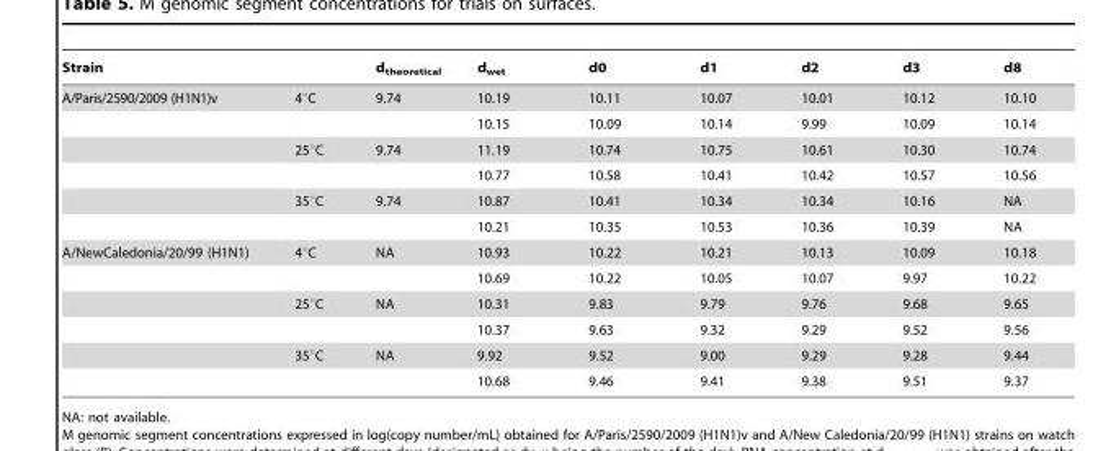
<table><thead><tr><td>Strain</td><td></td><td>d<sub>theoretical</sub></td><td>d<sub>wet</sub></td><td>d0</td><td>d1</td><td>d2</td><td>d3</td><td>d8</td></tr></thead><tbody><tr><td rowspan="6">A/Paris/2590/2009 (H1N1)v</td><td>4°C</td><td>9.74</td><td>10.19</td><td>10.11</td><td>10.07</td><td>10.01</td><td>10.12</td><td>10.10</td></tr><tr><td></td><td></td><td>10.15</td><td>10.09</td><td>10.14</td><td>9.99</td><td>10.09</td><td>10.14</td></tr><tr><td>25°C</td><td>9.74</td><td>11.19</td><td>10.74</td><td>10.75</td><td>10.61</td><td>10.30</td><td>10.74</td></tr><tr><td></td><td></td><td>10.77</td><td>10.58</td><td>10.41</td><td>10.42</td><td>10.57</td><td>10.56</td></tr><tr><td>35°C</td><td>9.74</td><td>10.87</td><td>10.41</td><td>10.34</td><td>10.34</td><td>10.16</td><td>NA</td></tr><tr><td></td><td></td><td>10.21</td><td>10.35</td><td>10.53</td><td>10.36</td><td>10.39</td><td>NA</td></tr><tr><td rowspan="6">A/NewCaledonia/20/99 (H1N1)</td><td>4°C</td><td>NA</td><td>10.93</td><td>10.22</td><td>10.21</td><td>10.13</td><td>10.09</td><td>10.18</td></tr><tr><td></td><td></td><td>10.69</td><td>10.22</td><td>10.05</td><td>10.07</td><td>9.97</td><td>10.22</td></tr><tr><td>25°C</td><td>NA</td><td>10.31</td><td>9.83</td><td>9.79</td><td>9.76</td><td>9.68</td><td>9.65</td></tr><tr><td></td><td></td><td>10.37</td><td>9.63</td><td>9.32</td><td>9.29</td><td>9.52</td><td>9.56</td></tr><tr><td>35°C</td><td>NA</td><td>9.92</td><td>9.52</td><td>9.00</td><td>9.29</td><td>9.28</td><td>9.44</td></tr><tr><td></td><td></td><td>10.68</td><td>9.46</td><td>9.41</td><td>9.38</td><td>9.51</td><td>9.37</td></tr></tbody></table>